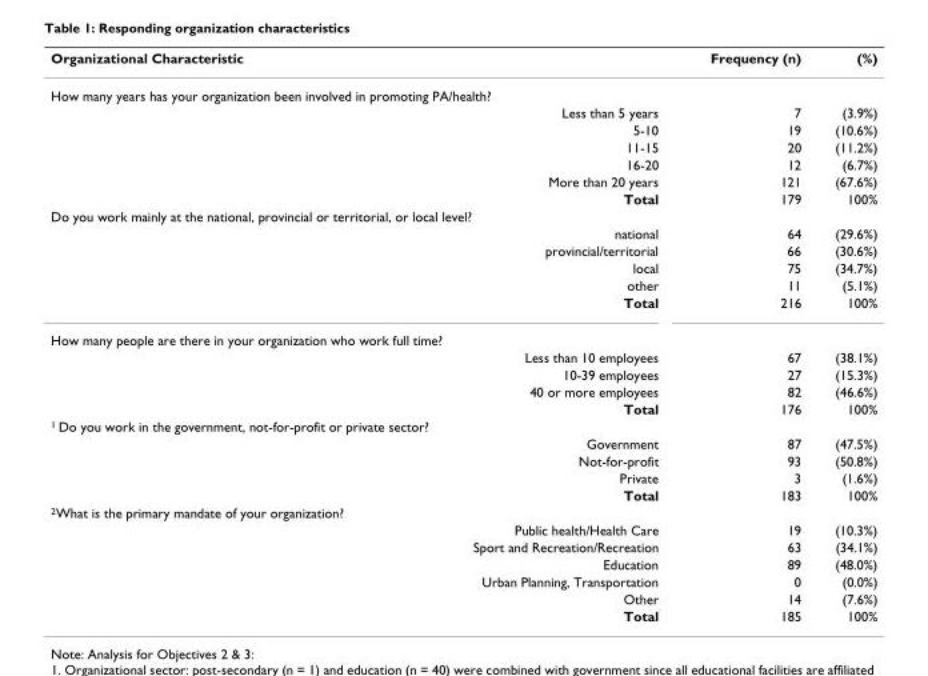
<table><thead><tr><td>Organizational Characteristic</td><td>Frequency (n)</td><td>(%)</td></tr></thead><tbody><tr><td colspan="3">How many years has your organization been involved in promoting PA/health?</td></tr><tr><td>Less than 5 years</td><td>7</td><td>(3.9%)</td></tr><tr><td>5-10</td><td>19</td><td>(10.6%)</td></tr><tr><td>11-15</td><td>20</td><td>(11.2%)</td></tr><tr><td>16-20</td><td>12</td><td>(6.7%)</td></tr><tr><td>More than 20 years</td><td>121</td><td>(67.6%)</td></tr><tr><td>Total</td><td>179</td><td>100%</td></tr><tr><td colspan="3">Do you work mainly at the national, provincial or territorial, or local level?</td></tr><tr><td>national</td><td>64</td><td>(29.6%)</td></tr><tr><td>provincial/territorial</td><td>66</td><td>(30.6%)</td></tr><tr><td>local</td><td>75</td><td>(34.7%)</td></tr><tr><td>other</td><td>11</td><td>(5.1%)</td></tr><tr><td>Total</td><td>216</td><td>100%</td></tr><tr><td colspan="3">How many people are there in your organization who work full time?</td></tr><tr><td>Less than 10 employees</td><td>67</td><td>(38.1%)</td></tr><tr><td>10-39 employees</td><td>27</td><td>(15.3%)</td></tr><tr><td>40 or more employees</td><td>82</td><td>(46.6%)</td></tr><tr><td>Total</td><td>176</td><td>100%</td></tr><tr><td colspan="3"><sup>1</sup> Do you work in the government, not-for-profit or private sector?</td></tr><tr><td>Government</td><td>87</td><td>(47.5%)</td></tr><tr><td>Not-for-profit</td><td>93</td><td>(50.8%)</td></tr><tr><td>Private</td><td>3</td><td>(1.6%)</td></tr><tr><td>Total</td><td>183</td><td>100%</td></tr><tr><td colspan="3"><sup>2</sup>What is the primary mandate of your organization?</td></tr><tr><td>Public health/Health Care</td><td>19</td><td>(10.3%)</td></tr><tr><td>Sport and Recreation/Recreation</td><td>63</td><td>(34.1%)</td></tr><tr><td>Education</td><td>89</td><td>(48.0%)</td></tr><tr><td>Urban Planning, Transportation</td><td>0</td><td>(0.0%)</td></tr><tr><td>Other</td><td>14</td><td>(7.6%)</td></tr><tr><td>Total</td><td>185</td><td>100%</td></tr></tbody></table>